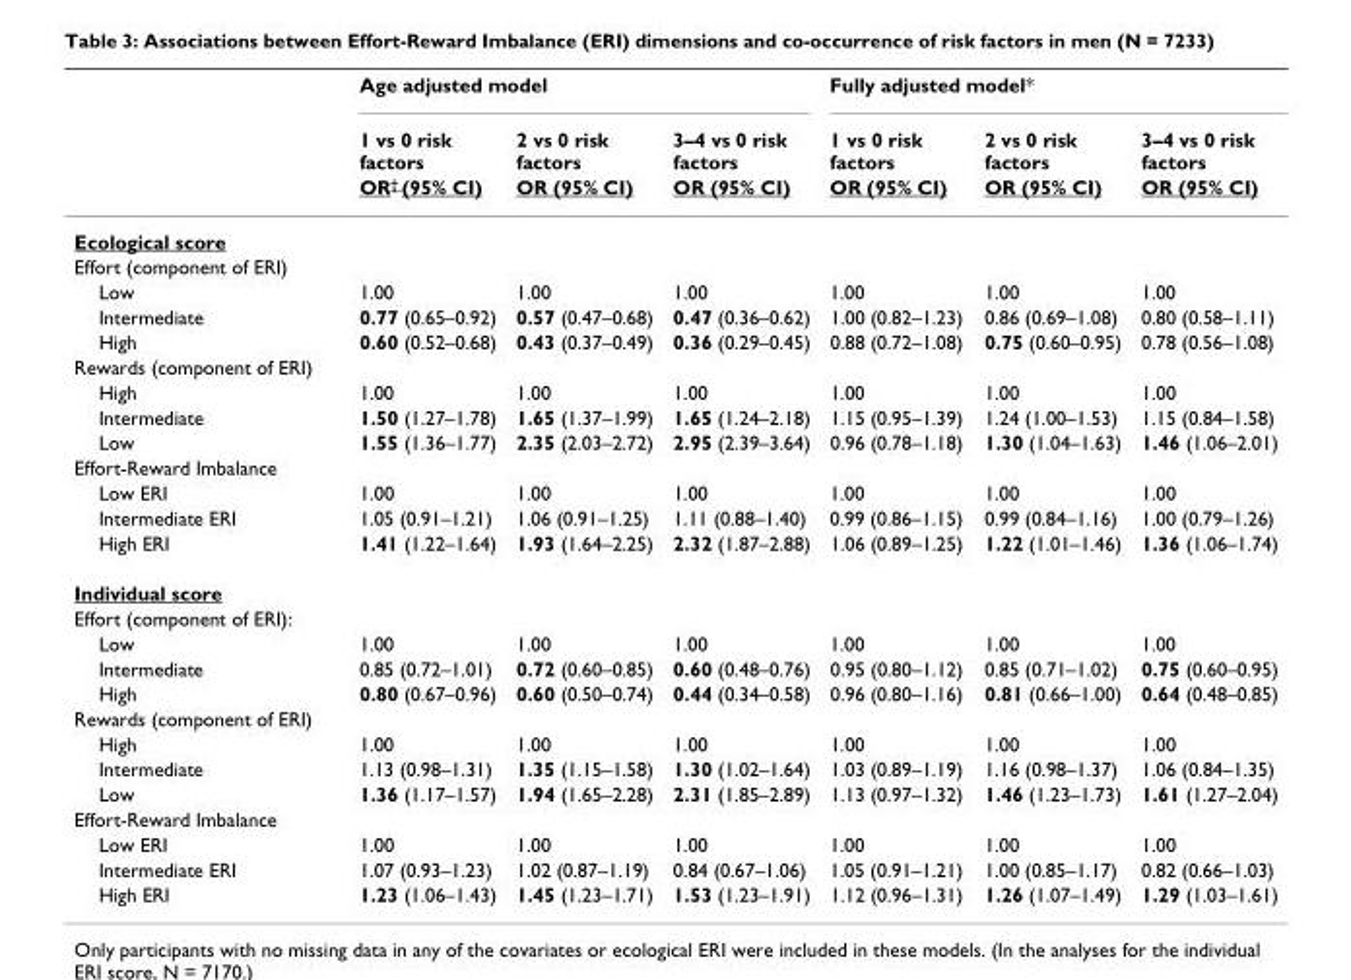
<table><thead><tr><td rowspan="3"></td><td colspan="3">Age adjusted model</td><td colspan="3">Fully adjusted model*</td></tr><tr><td rowspan="2">1 vs 0 risk factors OR† (95% CI)</td><td rowspan="2">2 vs 0 risk factors OR (95% CI)</td><td rowspan="2">3–4 vs 0 risk factors OR (95% CI)</td><td rowspan="2">1 vs 0 risk factors OR (95% CI)</td><td rowspan="2">2 vs 0 risk factors OR (95% CI)</td><td rowspan="2">3–4 vs 0 risk factors OR (95% CI)</td></tr><tr></tr></thead><tbody><tr><td colspan="7">Ecological score</td></tr><tr><td colspan="7">Effort (component of ERI)</td></tr><tr><td>Low</td><td>1.00</td><td>1.00</td><td>1.00</td><td>1.00</td><td>1.00</td><td>1.00</td></tr><tr><td>Intermediate</td><td>0.77 (0.65–0.92)</td><td>0.57 (0.47–0.68)</td><td>0.47 (0.36–0.62)</td><td>1.00 (0.82–1.23)</td><td>0.86 (0.69–1.08)</td><td>0.80 (0.58–1.11)</td></tr><tr><td>High</td><td>0.60 (0.52–0.68)</td><td>0.43 (0.37–0.49)</td><td>0.36 (0.29–0.45)</td><td>0.88 (0.72–1.08)</td><td>0.75 (0.60–0.95)</td><td>0.78 (0.56–1.08)</td></tr><tr><td colspan="7">Rewards (component of ERI)</td></tr><tr><td>High</td><td>1.00</td><td>1.00</td><td>1.00</td><td>1.00</td><td>1.00</td><td>1.00</td></tr><tr><td>Intermediate</td><td>1.50 (1.27–1.78)</td><td>1.65 (1.37–1.99)</td><td>1.65 (1.24–2.18)</td><td>1.15 (0.95–1.39)</td><td>1.24 (1.00–1.53)</td><td>1.15 (0.84–1.58)</td></tr><tr><td>Low</td><td>1.55 (1.36–1.77)</td><td>2.35 (2.03–2.72)</td><td>2.95 (2.39–3.64)</td><td>0.96 (0.78–1.18)</td><td>1.30 (1.04–1.63)</td><td>1.46 (1.06–2.01)</td></tr><tr><td colspan="7">Effort-Reward Imbalance</td></tr><tr><td>Low ERI</td><td>1.00</td><td>1.00</td><td>1.00</td><td>1.00</td><td>1.00</td><td>1.00</td></tr><tr><td>Intermediate ERI</td><td>1.05 (0.91–1.21)</td><td>1.06 (0.91–1.25)</td><td>1.11 (0.88–1.40)</td><td>0.99 (0.86–1.15)</td><td>0.99 (0.84–1.16)</td><td>1.00 (0.79–1.26)</td></tr><tr><td>High ERI</td><td>1.41 (1.22–1.64)</td><td>1.93 (1.64–2.25)</td><td>2.32 (1.87–2.88)</td><td>1.06 (0.89–1.25)</td><td>1.22 (1.01–1.46)</td><td>1.36 (1.06–1.74)</td></tr><tr><td colspan="7">Individual score</td></tr><tr><td colspan="7">Effort (component of ERI):</td></tr><tr><td>Low</td><td>1.00</td><td>1.00</td><td>1.00</td><td>1.00</td><td>1.00</td><td>1.00</td></tr><tr><td>Intermediate</td><td>0.85 (0.72–1.01)</td><td>0.72 (0.60–0.85)</td><td>0.60 (0.48–0.76)</td><td>0.95 (0.80–1.12)</td><td>0.85 (0.71–1.02)</td><td>0.75 (0.60–0.95)</td></tr><tr><td>High</td><td>0.80 (0.67–0.96)</td><td>0.60 (0.50–0.74)</td><td>0.44 (0.34–0.58)</td><td>0.96 (0.80–1.16)</td><td>0.81 (0.66–1.00)</td><td>0.64 (0.48–0.85)</td></tr><tr><td colspan="7">Rewards (component of ERI)</td></tr><tr><td>High</td><td>1.00</td><td>1.00</td><td>1.00</td><td>1.00</td><td>1.00</td><td>1.00</td></tr><tr><td>Intermediate</td><td>1.13 (0.98–1.31)</td><td>1.35 (1.15–1.58)</td><td>1.30 (1.02–1.64)</td><td>1.03 (0.89–1.19)</td><td>1.16 (0.98–1.37)</td><td>1.06 (0.84–1.35)</td></tr><tr><td>Low</td><td>1.36 (1.17–1.57)</td><td>1.94 (1.65–2.28)</td><td>2.31 (1.85–2.89)</td><td>1.13 (0.97–1.32)</td><td>1.46 (1.23–1.73)</td><td>1.61 (1.27–2.04)</td></tr><tr><td colspan="7">Effort-Reward Imbalance</td></tr><tr><td>Low ERI</td><td>1.00</td><td>1.00</td><td>1.00</td><td>1.00</td><td>1.00</td><td>1.00</td></tr><tr><td>Intermediate ERI</td><td>1.07 (0.93–1.23)</td><td>1.02 (0.87–1.19)</td><td>0.84 (0.67–1.06)</td><td>1.05 (0.91–1.21)</td><td>1.00 (0.85–1.17)</td><td>0.82 (0.66–1.03)</td></tr><tr><td>High ERI</td><td>1.23 (1.06–1.43)</td><td>1.45 (1.23–1.71)</td><td>1.53 (1.23–1.91)</td><td>1.12 (0.96–1.31)</td><td>1.26 (1.07–1.49)</td><td>1.29 (1.03–1.61)</td></tr></tbody></table>